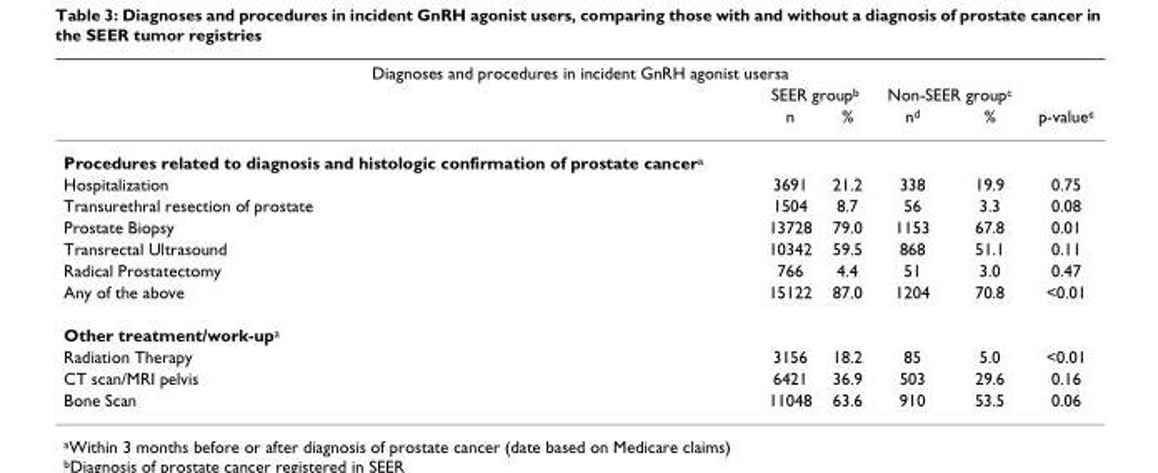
<table><thead><tr><td colspan="6">Diagnoses and procedures in incident GnRH agonist usersa</td></tr><tr><td rowspan="2"></td><td colspan="2">SEER group<sup>b</sup></td><td colspan="2">Non-SEER group<sup>c</sup></td><td rowspan="2">p-value<sup>e</sup></td></tr><tr><td>n</td><td>%</td><td>n<sup>d</sup></td><td>%</td></tr></thead><tbody><tr><td colspan="6">Procedures related to diagnosis and histologic confirmation of prostate cancer<sup>a</sup></td></tr><tr><td>Hospitalization</td><td>3691</td><td>21.2</td><td>338</td><td>19.9</td><td>0.75</td></tr><tr><td>Transurethral resection of prostate</td><td>1504</td><td>8.7</td><td>56</td><td>3.3</td><td>0.08</td></tr><tr><td>Prostate Biopsy</td><td>13728</td><td>79.0</td><td>1153</td><td>67.8</td><td>0.01</td></tr><tr><td>Transrectal Ultrasound</td><td>10342</td><td>59.5</td><td>868</td><td>51.1</td><td>0.11</td></tr><tr><td>Radical Prostatectomy</td><td>766</td><td>4.4</td><td>51</td><td>3.0</td><td>0.47</td></tr><tr><td>Any of the above</td><td>15122</td><td>87.0</td><td>1204</td><td>70.8</td><td>&lt;0.01</td></tr><tr><td colspan="6">Other treatment/work-up<sup>a</sup></td></tr><tr><td>Radiation Therapy</td><td>3156</td><td>18.2</td><td>85</td><td>5.0</td><td>&lt;0.01</td></tr><tr><td>CT scan/MRI pelvis</td><td>6421</td><td>36.9</td><td>503</td><td>29.6</td><td>0.16</td></tr><tr><td>Bone Scan</td><td>11048</td><td>63.6</td><td>910</td><td>53.5</td><td>0.06</td></tr></tbody></table>